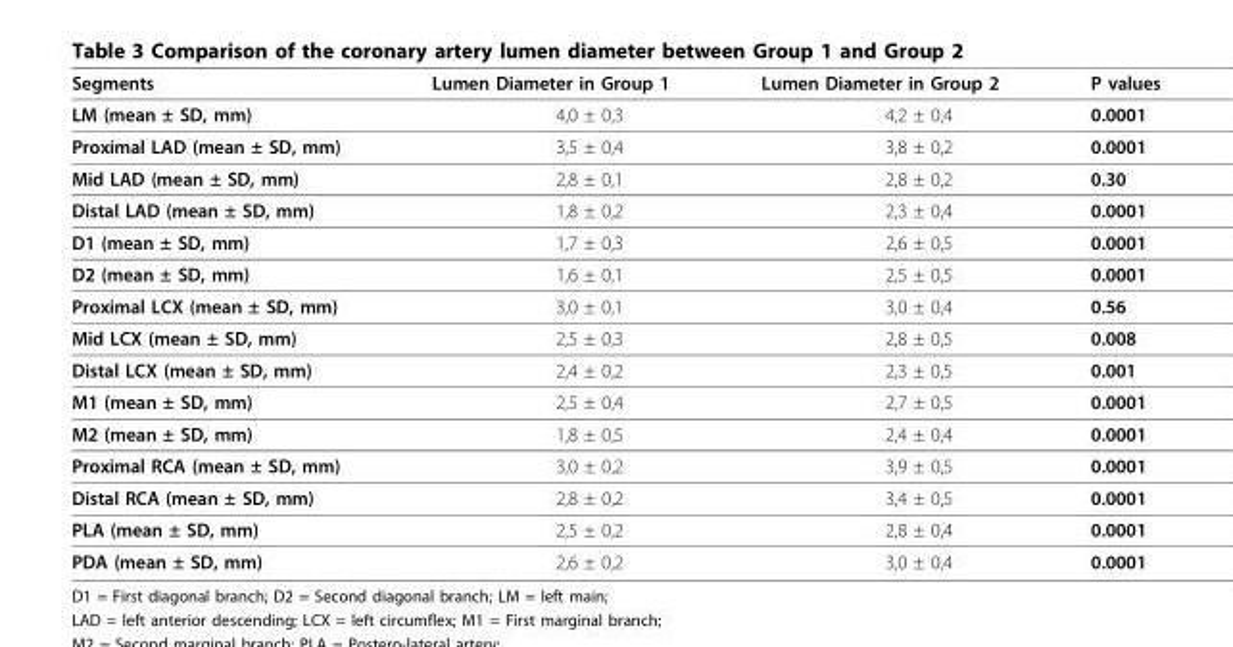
<table><thead><tr><td>Segments</td><td>Lumen Diameter in Group 1</td><td>Lumen Diameter in Group 2</td><td>P values</td></tr></thead><tbody><tr><td>LM (mean ± SD, mm)</td><td>4,0 ± 0,3</td><td>4,2 ± 0,4</td><td>0.0001</td></tr><tr><td>Proximal LAD (mean ± SD, mm)</td><td>3,5 ± 0,4</td><td>3,8 ± 0,2</td><td>0.0001</td></tr><tr><td>Mid LAD (mean ± SD, mm)</td><td>2,8 ± 0,1</td><td>2,8 ± 0,2</td><td>0.30</td></tr><tr><td>Distal LAD (mean ± SD, mm)</td><td>1,8 ± 0,2</td><td>2,3 ± 0,4</td><td>0.0001</td></tr><tr><td>D1 (mean ± SD, mm)</td><td>1,7 ± 0,3</td><td>2,6 ± 0,5</td><td>0.0001</td></tr><tr><td>D2 (mean ± SD, mm)</td><td>1,6 ± 0,1</td><td>2,5 ± 0,5</td><td>0.0001</td></tr><tr><td>Proximal LCX (mean ± SD, mm)</td><td>3,0 ± 0,1</td><td>3,0 ± 0,4</td><td>0.56</td></tr><tr><td>Mid LCX (mean ± SD, mm)</td><td>2,5 ± 0,3</td><td>2,8 ± 0,5</td><td>0.008</td></tr><tr><td>Distal LCX (mean ± SD, mm)</td><td>2,4 ± 0,2</td><td>2,3 ± 0,5</td><td>0.001</td></tr><tr><td>M1 (mean ± SD, mm)</td><td>2,5 ± 0,4</td><td>2,7 ± 0,5</td><td>0.0001</td></tr><tr><td>M2 (mean ± SD, mm)</td><td>1,8 ± 0,5</td><td>2,4 ± 0,4</td><td>0.0001</td></tr><tr><td>Proximal RCA (mean ± SD, mm)</td><td>3,0 ± 0,2</td><td>3,9 ± 0,5</td><td>0.0001</td></tr><tr><td>Distal RCA (mean ± SD, mm)</td><td>2,8 ± 0,2</td><td>3,4 ± 0,5</td><td>0.0001</td></tr><tr><td>PLA (mean ± SD, mm)</td><td>2,5 ± 0,2</td><td>2,8 ± 0,4</td><td>0.0001</td></tr><tr><td>PDA (mean ± SD, mm)</td><td>2,6 ± 0,2</td><td>3,0 ± 0,4</td><td>0.0001</td></tr></tbody></table>